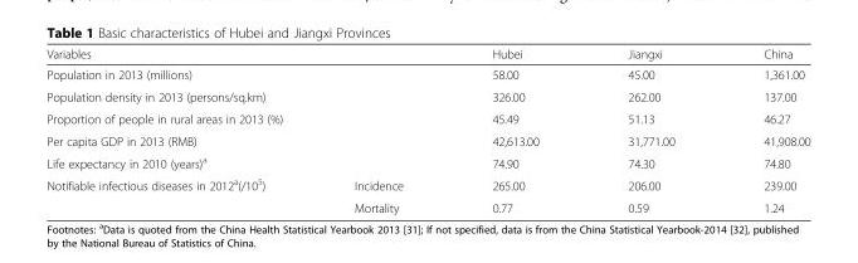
<table><thead><tr><td colspan="2">Variables</td><td>Hubei</td><td>Jiangxi</td><td>China</td></tr></thead><tbody><tr><td colspan="2">Population in 2013 (millions)</td><td>58.00</td><td>45.00</td><td>1,361.00</td></tr><tr><td colspan="2">Population density in 2013 (persons/sq.km)</td><td>326.00</td><td>262.00</td><td>137.00</td></tr><tr><td colspan="2">Proportion of people in rural areas in 2013 (%)</td><td>45.49</td><td>51.13</td><td>46.27</td></tr><tr><td colspan="2">Per capita GDP in 2013 (RMB)</td><td>42,613.00</td><td>31,771.00</td><td>41,908.00</td></tr><tr><td colspan="2">Life expectancy in 2010 (years)<sup>a</sup></td><td>74.90</td><td>74.30</td><td>74.80</td></tr><tr><td rowspan="2">Notifiable infectious diseases in 2012<sup>a</sup>(/10<sup>5</sup>)</td><td>Incidence</td><td>265.00</td><td>206.00</td><td>239.00</td></tr><tr><td>Mortality</td><td>0.77</td><td>0.59</td><td>1.24</td></tr></tbody></table>